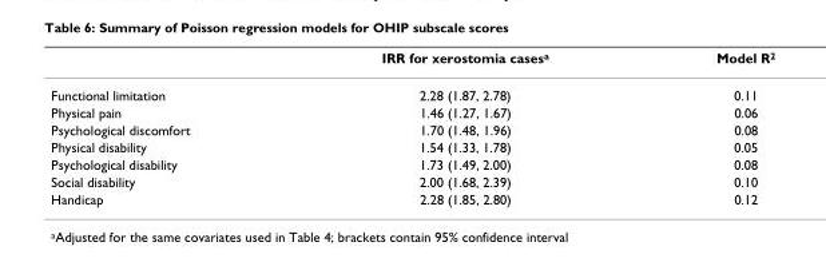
<table><thead><tr><td></td><td>IRR for xerostomia cases<sup>a</sup></td><td>Model R<sup>2</sup></td></tr></thead><tbody><tr><td>Functional limitation</td><td>2.28 (1.87, 2.78)</td><td>0.11</td></tr><tr><td>Physical pain</td><td>1.46 (1.27, 1.67)</td><td>0.06</td></tr><tr><td>Psychological discomfort</td><td>1.70 (1.48, 1.96)</td><td>0.08</td></tr><tr><td>Physical disability</td><td>1.54 (1.33, 1.78)</td><td>0.05</td></tr><tr><td>Psychological disability</td><td>1.73 (1.49, 2.00)</td><td>0.08</td></tr><tr><td>Social disability</td><td>2.00 (1.68, 2.39)</td><td>0.10</td></tr><tr><td>Handicap</td><td>2.28 (1.85, 2.80)</td><td>0.12</td></tr></tbody></table>